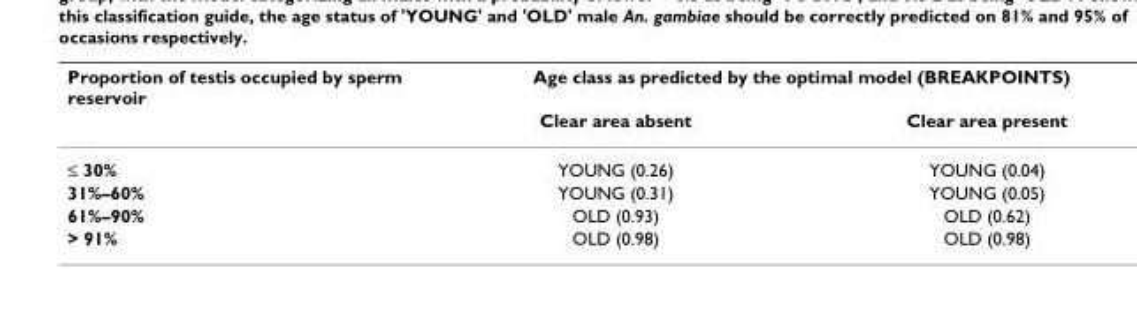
<table><thead><tr><td rowspan="2">Proportion of testis occupied by sperm reservoir</td><td colspan="2">Age class as predicted by the optimal model (BREAKPOINTS)</td></tr><tr><td>Clear area absent</td><td>Clear area present</td></tr></thead><tbody><tr><td>≤ 30%</td><td>YOUNG (0.26)</td><td>YOUNG (0.04)</td></tr><tr><td>31%–60%</td><td>YOUNG (0.31)</td><td>YOUNG (0.05)</td></tr><tr><td>61%–90%</td><td>OLD (0.93)</td><td>OLD (0.62)</td></tr><tr><td>&gt; 91%</td><td>OLD (0.98)</td><td>OLD (0.98)</td></tr></tbody></table>